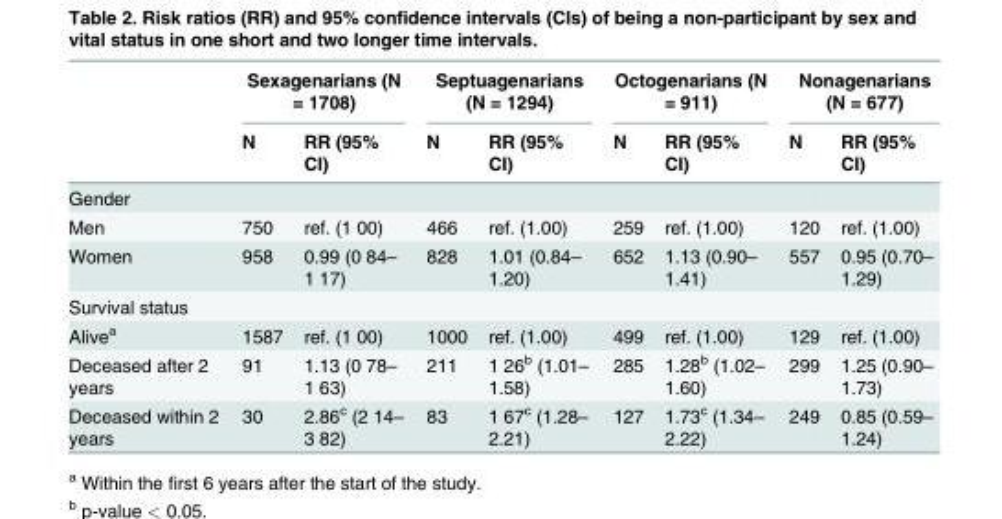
<table><thead><tr><td rowspan="2"></td><td colspan="2">Sexagenarians (N = 1708)</td><td colspan="2">Septuagenarians (N = 1294)</td><td colspan="2">Octogenarians (N = 911)</td><td colspan="2">Nonagenarians (N = 677)</td></tr><tr><td>N</td><td>RR (95% CI)</td><td>N</td><td>RR (95% CI)</td><td>N</td><td>RR (95% CI)</td><td>N</td><td>RR (95% CI)</td></tr></thead><tbody><tr><td colspan="9">Gender</td></tr><tr><td>Men</td><td>750</td><td>ref. (1 00)</td><td>466</td><td>ref. (1.00)</td><td>259</td><td>ref. (1.00)</td><td>120</td><td>ref. (1.00)</td></tr><tr><td>Women</td><td>958</td><td>0.99 (0 84– 1 17)</td><td>828</td><td>1.01 (0.84– 1.20)</td><td>652</td><td>1.13 (0.90– 1.41)</td><td>557</td><td>0.95 (0.70– 1.29)</td></tr><tr><td colspan="9">Survival status</td></tr><tr><td>Alive<sup>a</sup></td><td>1587</td><td>ref. (1 00)</td><td>1000</td><td>ref. (1.00)</td><td>499</td><td>ref. (1.00)</td><td>129</td><td>ref. (1.00)</td></tr><tr><td>Deceased after 2 years</td><td>91</td><td>1.13 (0 78– 1 63)</td><td>211</td><td>1 26<sup>b</sup> (1.01– 1.58)</td><td>285</td><td>1.28<sup>b</sup> (1.02– 1.60)</td><td>299</td><td>1.25 (0.90– 1.73)</td></tr><tr><td>Deceased within 2 years</td><td>30</td><td>2.86<sup>c</sup> (2 14– 3 82)</td><td>83</td><td>1 67<sup>c</sup> (1.28– 2.21)</td><td>127</td><td>1.73<sup>c</sup> (1.34– 2.22)</td><td>249</td><td>0.85 (0.59– 1.24)</td></tr></tbody></table>